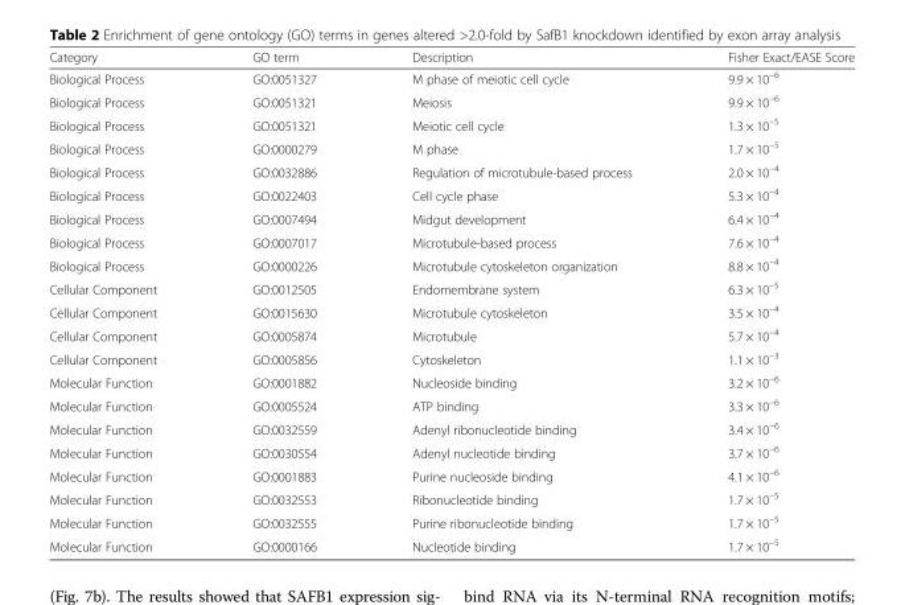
<table><thead><tr><td>Category</td><td>GO term</td><td>Description</td><td>Fisher Exact/EASE Score</td></tr></thead><tbody><tr><td>Biological Process</td><td>GO:0051327</td><td>M phase of meiotic cell cycle</td><td>9.9 × 10<sup>–6</sup></td></tr><tr><td>Biological Process</td><td>GO:0051321</td><td>Meiosis</td><td>9.9 × 10<sup>–6</sup></td></tr><tr><td>Biological Process</td><td>GO:0051321</td><td>Meiotic cell cycle</td><td>1.3 × 10<sup>–5</sup></td></tr><tr><td>Biological Process</td><td>GO:0000279</td><td>M phase</td><td>1.7 × 10<sup>–5</sup></td></tr><tr><td>Biological Process</td><td>GO:0032886</td><td>Regulation of microtubule-based process</td><td>2.0 × 10<sup>–4</sup></td></tr><tr><td>Biological Process</td><td>GO:0022403</td><td>Cell cycle phase</td><td>5.3 × 10<sup>–4</sup></td></tr><tr><td>Biological Process</td><td>GO:0007494</td><td>Midgut development</td><td>6.4 × 10<sup>–4</sup></td></tr><tr><td>Biological Process</td><td>GO:0007017</td><td>Microtubule-based process</td><td>7.6 × 10<sup>–4</sup></td></tr><tr><td>Biological Process</td><td>GO:0000226</td><td>Microtubule cytoskeleton organization</td><td>8.8 × 10<sup>–4</sup></td></tr><tr><td>Cellular Component</td><td>GO:0012505</td><td>Endomembrane system</td><td>6.3 × 10<sup>–5</sup></td></tr><tr><td>Cellular Component</td><td>GO:0015630</td><td>Microtubule cytoskeleton</td><td>3.5 × 10<sup>–4</sup></td></tr><tr><td>Cellular Component</td><td>GO:0005874</td><td>Microtubule</td><td>5.7 × 10<sup>–4</sup></td></tr><tr><td>Cellular Component</td><td>GO:0005856</td><td>Cytoskeleton</td><td>1.1 × 10<sup>–3</sup></td></tr><tr><td>Molecular Function</td><td>GO:0001882</td><td>Nucleoside binding</td><td>3.2 × 10<sup>–6</sup></td></tr><tr><td>Molecular Function</td><td>GO:0005524</td><td>ATP binding</td><td>3.3 × 10<sup>–6</sup></td></tr><tr><td>Molecular Function</td><td>GO:0032559</td><td>Adenyl ribonucleotide binding</td><td>3.4 × 10<sup>–6</sup></td></tr><tr><td>Molecular Function</td><td>GO:0030554</td><td>Adenyl nucleotide binding</td><td>3.7 × 10<sup>–6</sup></td></tr><tr><td>Molecular Function</td><td>GO:0001883</td><td>Purine nucleoside binding</td><td>4.1 × 10<sup>–6</sup></td></tr><tr><td>Molecular Function</td><td>GO:0032553</td><td>Ribonucleotide binding</td><td>1.7 × 10<sup>–5</sup></td></tr><tr><td>Molecular Function</td><td>GO:0032555</td><td>Purine ribonucleotide binding</td><td>1.7 × 10<sup>–5</sup></td></tr><tr><td>Molecular Function</td><td>GO:0000166</td><td>Nucleotide binding</td><td>1.7 × 10<sup>–5</sup></td></tr></tbody></table>